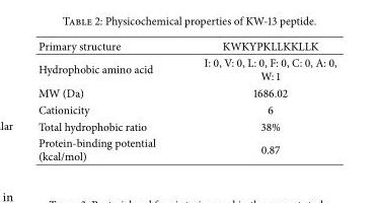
<table><thead><tr><td>Primary structure</td><td>KWKYPKLLKKLLK</td></tr></thead><tbody><tr><td>Hydrophobic amino acid</td><td>I: 0, V: 0, L: 0, F: 0, C: 0, A: 0, W: 1</td></tr><tr><td>MW (Da)</td><td>1686.02</td></tr><tr><td>Cationicity</td><td>6</td></tr><tr><td>Total hydrophobic ratio</td><td>38%</td></tr><tr><td>Protein-binding potential (kcal/mol)</td><td>0.87</td></tr></tbody></table>